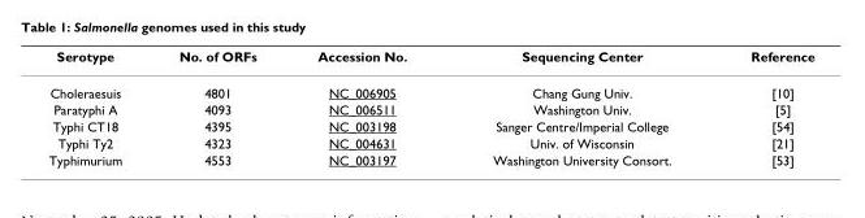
<table><thead><tr><td>Serotype</td><td>No. of ORFs</td><td>Accession No.</td><td>Sequencing Center</td><td>Reference</td></tr></thead><tbody><tr><td>Choleraesuis</td><td>4801</td><td>NC_006905</td><td>Chang Gung Univ.</td><td>[10]</td></tr><tr><td>Paratyphi A</td><td>4093</td><td>NC_006511</td><td>Washington Univ.</td><td>[5]</td></tr><tr><td>Typhi CT18</td><td>4395</td><td>NC_003198</td><td>Sanger Centre/Imperial College</td><td>[54]</td></tr><tr><td>Typhi Ty2</td><td>4323</td><td>NC_004631</td><td>Univ. of Wisconsin</td><td>[21]</td></tr><tr><td>Typhimurium</td><td>4553</td><td>NC_003197</td><td>Washington University Consort.</td><td>[53]</td></tr></tbody></table>